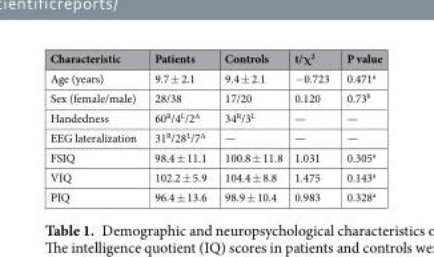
<table><thead><tr><td>Characteristic</td><td>Patients</td><td>Controls</td><td>t/χ<sup>2</sup></td><td>P value</td></tr></thead><tbody><tr><td>Age (years)</td><td>9.7 ± 2.1</td><td>9.4 ± 2.1</td><td>−0.723</td><td>0.471<sup>a</sup></td></tr><tr><td>Sex (female/male)</td><td>28/38</td><td>17/20</td><td>0.120</td><td>0.73<sup>b</sup></td></tr><tr><td>Handedness</td><td>60<sup>R</sup>/4<sup>L</sup>/2<sup>A</sup></td><td>34<sup>R</sup>/3<sup>L</sup></td><td>—</td><td>—</td></tr><tr><td>EEG lateralization</td><td>31<sup>R</sup>/28<sup>L</sup>/7<sup>A</sup></td><td>—</td><td>—</td><td>—</td></tr><tr><td>FSIQ</td><td>98.4 ± 11.1</td><td>100.8 ± 11.8</td><td>1.031</td><td>0.305<sup>a</sup></td></tr><tr><td>VIQ</td><td>102.2 ± 5.9</td><td>104.4 ± 8.8</td><td>1.475</td><td>0.143<sup>a</sup></td></tr><tr><td>PIQ</td><td>96.4 ± 13.6</td><td>98.9 ± 10.4</td><td>0.983</td><td>0.328<sup>a</sup></td></tr></tbody></table>